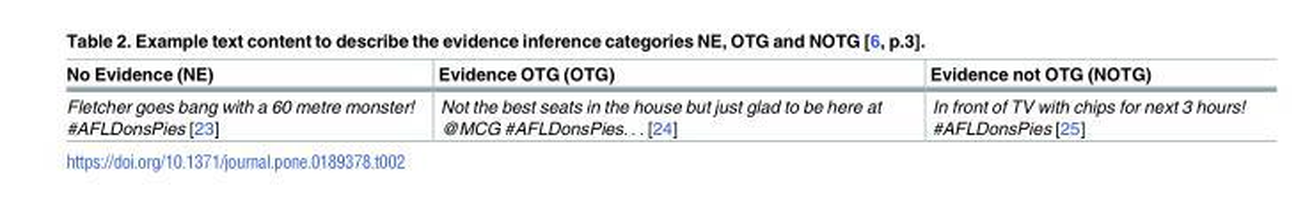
<table><thead><tr><td>No Evidence (NE)</td><td>Evidence OTG (OTG)</td><td>Evidence not OTG (NOTG)</td></tr></thead><tbody><tr><td>Fletcher goes bang with a 60 metre monster! #AFLDonsPies [23]</td><td>Not the best seats in the house but just glad to be here at @MCG #AFLDonsPies. . . [24]</td><td>In front of TV with chips for next 3 hours! #AFLDonsPies [25]</td></tr></tbody></table>